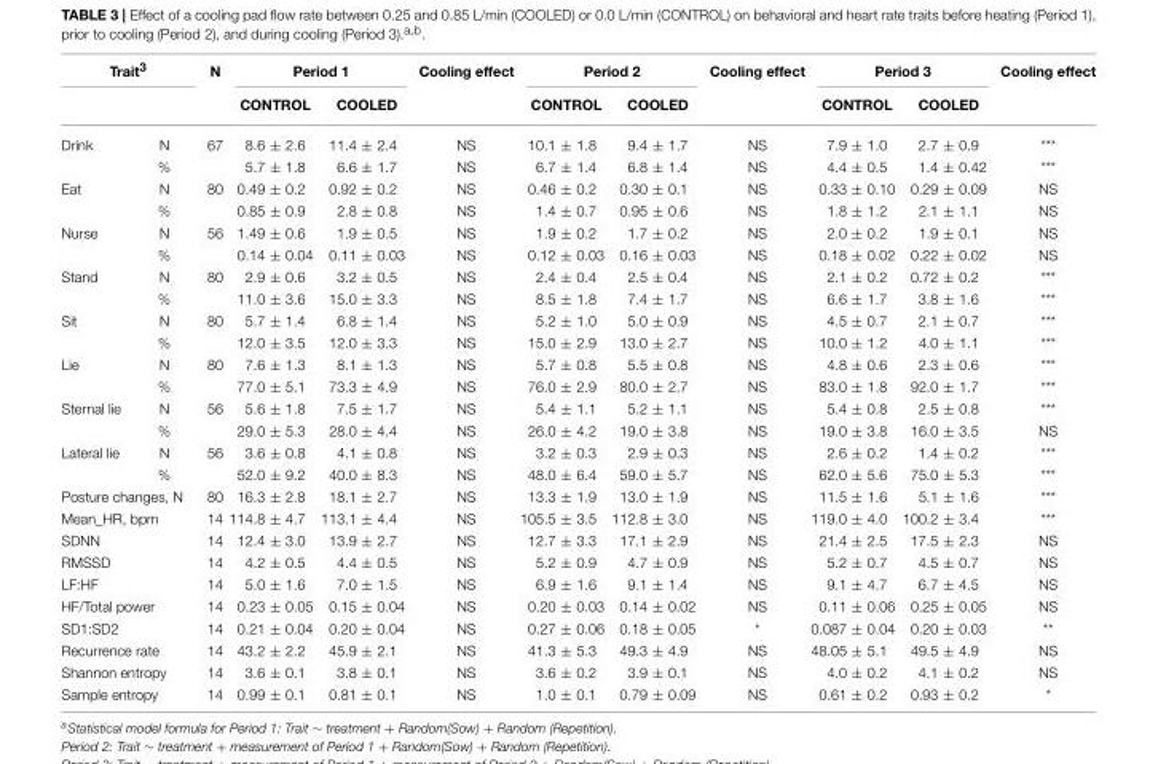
<table><thead><tr><td colspan="2">Trait<sup>3</sup></td><td rowspan="2">N</td><td colspan="2">Period 1</td><td rowspan="2">Cooling effect</td><td colspan="2">Period 2</td><td rowspan="2">Cooling effect</td><td colspan="2">Period 3</td><td rowspan="2">Cooling effect</td></tr><tr><td></td><td></td><td>CONTROL</td><td>COOLED</td><td>CONTROL</td><td>COOLED</td><td>CONTROL</td><td>COOLED</td></tr></thead><tbody><tr><td rowspan="2">Drink</td><td>N</td><td>67</td><td>8.6 ± 2.6</td><td>11.4 ± 2.4</td><td>NS</td><td>10.1 ± 1.8</td><td>9.4 ± 1.7</td><td>NS</td><td>7.9 ± 1.0</td><td>2.7 ± 0.9</td><td>***</td></tr><tr><td>%</td><td></td><td>5.7 ± 1.8</td><td>6.6 ± 1.7</td><td>NS</td><td>6.7 ± 1.4</td><td>6.8 ± 1.4</td><td>NS</td><td>4.4 ± 0.5</td><td>1.4 ± 0.42</td><td>***</td></tr><tr><td rowspan="2">Eat</td><td>N</td><td>80</td><td>0.49 ± 0.2</td><td>0.92 ± 0.2</td><td>NS</td><td>0.46 ± 0.2</td><td>0.30 ± 0.1</td><td>NS</td><td>0.33 ± 0.10</td><td>0.29 ± 0.09</td><td>NS</td></tr><tr><td>%</td><td></td><td>0.85 ± 0.9</td><td>2.8 ± 0.8</td><td>NS</td><td>1.4 ± 0.7</td><td>0.95 ± 0.6</td><td>NS</td><td>1.8 ± 1.2</td><td>2.1 ± 1.1</td><td>NS</td></tr><tr><td rowspan="2">Nurse</td><td>N</td><td>56</td><td>1.49 ± 0.6</td><td>1.9 ± 0.5</td><td>NS</td><td>1.9 ± 0.2</td><td>1.7 ± 0.2</td><td>NS</td><td>2.0 ± 0.2</td><td>1.9 ± 0.1</td><td>NS</td></tr><tr><td>%</td><td></td><td>0.14 ± 0.04</td><td>0.11 ± 0.03</td><td>NS</td><td>0.12 ± 0.03</td><td>0.16 ± 0.03</td><td>NS</td><td>0.18 ± 0.02</td><td>0.22 ± 0.02</td><td>NS</td></tr><tr><td rowspan="2">Stand</td><td>N</td><td>80</td><td>2.9 ± 0.6</td><td>3.2 ± 0.5</td><td>NS</td><td>2.4 ± 0.4</td><td>2.5 ± 0.4</td><td>NS</td><td>2.1 ± 0.2</td><td>0.72 ± 0.2</td><td>***</td></tr><tr><td>%</td><td></td><td>11.0 ± 3.6</td><td>15.0 ± 3.3</td><td>NS</td><td>8.5 ± 1.8</td><td>7.4 ± 1.7</td><td>NS</td><td>6.6 ± 1.7</td><td>3.8 ± 1.6</td><td>***</td></tr><tr><td rowspan="2">Sit</td><td>N</td><td>80</td><td>5.7 ± 1.4</td><td>6.8 ± 1.4</td><td>NS</td><td>5.2 ± 1.0</td><td>5.0 ± 0.9</td><td>NS</td><td>4.5 ± 0.7</td><td>2.1 ± 0.7</td><td>***</td></tr><tr><td>%</td><td></td><td>12.0 ± 3.5</td><td>12.0 ± 3.3</td><td>NS</td><td>15.0 ± 2.9</td><td>13.0 ± 2.7</td><td>NS</td><td>10.0 ± 1.2</td><td>4.0 ± 1.1</td><td>***</td></tr><tr><td rowspan="2">Lie</td><td>N</td><td>80</td><td>7.6 ± 1.3</td><td>8.1 ± 1.3</td><td>NS</td><td>5.7 ± 0.8</td><td>5.5 ± 0.8</td><td>NS</td><td>4.8 ± 0.6</td><td>2.3 ± 0.6</td><td>***</td></tr><tr><td>%</td><td></td><td>77.0 ± 5.1</td><td>73.3 ± 4.9</td><td>NS</td><td>76.0 ± 2.9</td><td>80.0 ± 2.7</td><td>NS</td><td>83.0 ± 1.8</td><td>92.0 ± 1.7</td><td>***</td></tr><tr><td rowspan="2">Sternal lie</td><td>N</td><td>56</td><td>5.6 ± 1.8</td><td>7.5 ± 1.7</td><td>NS</td><td>5.4 ± 1.1</td><td>5.2 ± 1.1</td><td>NS</td><td>5.4 ± 0.8</td><td>2.5 ± 0.8</td><td>***</td></tr><tr><td>%</td><td></td><td>29.0 ± 5.3</td><td>28.0 ± 4.4</td><td>NS</td><td>26.0 ± 4.2</td><td>19.0 ± 3.8</td><td>NS</td><td>19.0 ± 3.8</td><td>16.0 ± 3.5</td><td>NS</td></tr><tr><td rowspan="2">Lateral lie</td><td>N</td><td>56</td><td>3.6 ± 0.8</td><td>4.1 ± 0.8</td><td>NS</td><td>3.2 ± 0.3</td><td>2.9 ± 0.3</td><td>NS</td><td>2.6 ± 0.2</td><td>1.4 ± 0.2</td><td>***</td></tr><tr><td>%</td><td></td><td>52.0 ± 9.2</td><td>40.0 ± 8.3</td><td>NS</td><td>48.0 ± 6.4</td><td>59.0 ± 5.7</td><td>NS</td><td>62.0 ± 5.6</td><td>75.0 ± 5.3</td><td>***</td></tr><tr><td colspan="2">Posture changes, N</td><td>80</td><td>16.3 ± 2.8</td><td>18.1 ± 2.7</td><td>NS</td><td>13.3 ± 1.9</td><td>13.0 ± 1.9</td><td>NS</td><td>11.5 ± 1.6</td><td>5.1 ± 1.6</td><td>***</td></tr><tr><td colspan="2">Mean_HR, bpm</td><td>14</td><td>114.8 ± 4.7</td><td>113.1 ± 4.4</td><td>NS</td><td>105.5 ± 3.5</td><td>112.8 ± 3.0</td><td>NS</td><td>119.0 ± 4.0</td><td>100.2 ± 3.4</td><td>***</td></tr><tr><td colspan="2">SDNN</td><td>14</td><td>12.4 ± 3.0</td><td>13.9 ± 2.7</td><td>NS</td><td>12.7 ± 3.3</td><td>17.1 ± 2.9</td><td>NS</td><td>21.4 ± 2.5</td><td>17.5 ± 2.3</td><td>NS</td></tr><tr><td colspan="2">RMSSD</td><td>14</td><td>4.2 ± 0.5</td><td>4.4 ± 0.5</td><td>NS</td><td>5.2 ± 0.9</td><td>4.7 ± 0.9</td><td>NS</td><td>5.2 ± 0.7</td><td>4.5 ± 0.7</td><td>NS</td></tr><tr><td colspan="2">LF:HF</td><td>14</td><td>5.0 ± 1.6</td><td>7.0 ± 1.5</td><td>NS</td><td>6.9 ± 1.6</td><td>9.1 ± 1.4</td><td>NS</td><td>9.1 ± 4.7</td><td>6.7 ± 4.5</td><td>NS</td></tr><tr><td colspan="2">HF/Total power</td><td>14</td><td>0.23 ± 0.05</td><td>0.15 ± 0.04</td><td>NS</td><td>0.20 ± 0.03</td><td>0.14 ± 0.02</td><td>NS</td><td>0.11 ± 0.06</td><td>0.25 ± 0.05</td><td>NS</td></tr><tr><td colspan="2">SD1:SD2</td><td>14</td><td>0.21 ± 0.04</td><td>0.20 ± 0.04</td><td>NS</td><td>0.27 ± 0.06</td><td>0.18 ± 0.05</td><td>*</td><td>0.087 ± 0.04</td><td>0.20 ± 0.03</td><td>**</td></tr><tr><td colspan="2">Recurrence rate</td><td>14</td><td>43.2 ± 2.2</td><td>45.9 ± 2.1</td><td>NS</td><td>41.3 ± 5.3</td><td>49.3 ± 4.9</td><td>NS</td><td>48.05 ± 5.1</td><td>49.5 ± 4.9</td><td>NS</td></tr><tr><td colspan="2">Shannon entropy</td><td>14</td><td>3.6 ± 0.1</td><td>3.8 ± 0.1</td><td>NS</td><td>3.6 ± 0.2</td><td>3.9 ± 0.1</td><td>NS</td><td>4.0 ± 0.2</td><td>4.1 ± 0.2</td><td>NS</td></tr><tr><td colspan="2">Sample entropy</td><td>14</td><td>0.99 ± 0.1</td><td>0.81 ± 0.1</td><td>NS</td><td>1.0 ± 0.1</td><td>0.79 ± 0.09</td><td>NS</td><td>0.61 ± 0.2</td><td>0.93 ± 0.2</td><td>*</td></tr></tbody></table>